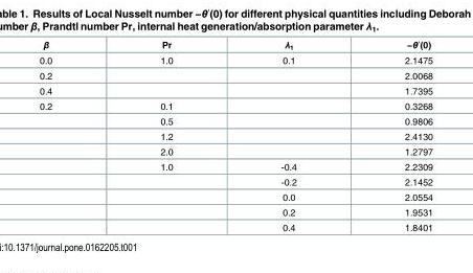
<table><thead><tr><td>β</td><td>Pr</td><td>λ<sub>1</sub></td><td>−θ′(0)</td></tr></thead><tbody><tr><td>0.0</td><td>1.0</td><td>0.1</td><td>2.1475</td></tr><tr><td>0.2</td><td></td><td></td><td>2.0068</td></tr><tr><td>0.4</td><td></td><td></td><td>1.7395</td></tr><tr><td rowspan="9">0.2</td><td>0.1</td><td></td><td>0.3268</td></tr><tr><td>0.5</td><td></td><td>0.9806</td></tr><tr><td>1.2</td><td></td><td>2.4130</td></tr><tr><td>2.0</td><td></td><td>1.2797</td></tr><tr><td>1.0</td><td>-0.4</td><td>2.2309</td></tr><tr><td></td><td>-0.2</td><td>2.1452</td></tr><tr><td></td><td>0.0</td><td>2.0554</td></tr><tr><td></td><td>0.2</td><td>1.9531</td></tr><tr><td></td><td>0.4</td><td>1.8401</td></tr></tbody></table>